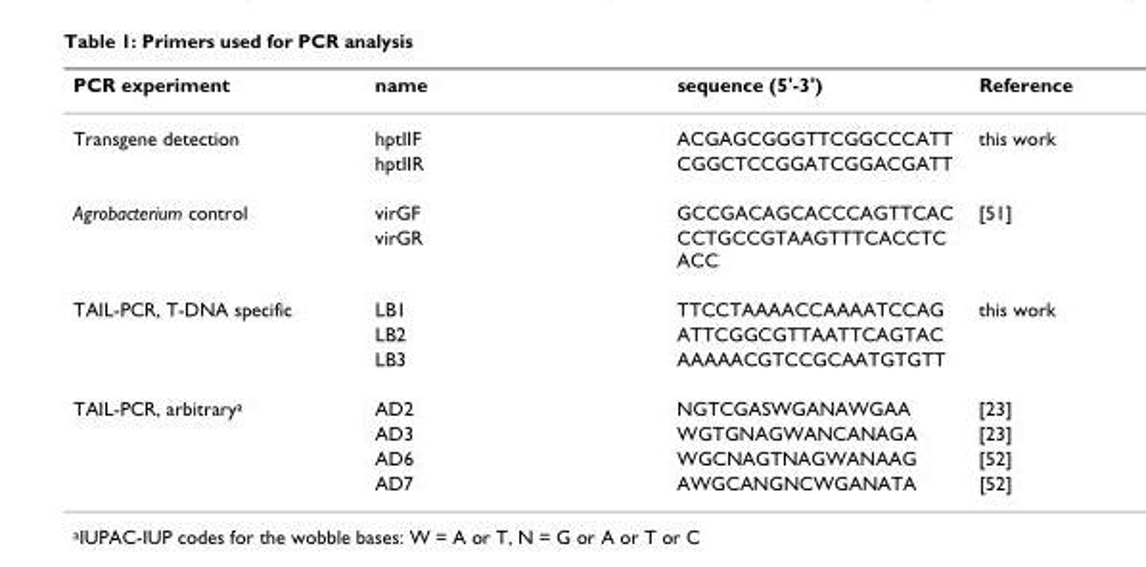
<table><thead><tr><td>PCR experiment</td><td>name</td><td>sequence (5&#x27;-3&#x27;)</td><td>Reference</td></tr></thead><tbody><tr><td rowspan="2">Transgene detection</td><td>hptIIF</td><td>ACGAGCGGGTTCGGCCCATT</td><td>this work</td></tr><tr><td>hptIIR</td><td>CGGCTCCGGATCGGACGATT</td><td></td></tr><tr><td rowspan="2">Agrobacterium control</td><td>virGF</td><td>GCCGACAGCACCCAGTTCAC</td><td>[51]</td></tr><tr><td>virGR</td><td>CCTGCCGTAAGTTTCACCTC ACC</td><td></td></tr><tr><td rowspan="3">TAIL-PCR, T-DNA specific</td><td>LB1</td><td>TTCCTAAAACCAAAATCCAG</td><td>this work</td></tr><tr><td>LB2</td><td>ATTCGGCGTTAATTCAGTAC</td><td></td></tr><tr><td>LB3</td><td>AAAAACGTCCGCAATGTGTT</td><td></td></tr><tr><td rowspan="4">TAIL-PCR, arbitrarya</td><td>AD2</td><td>NGTCGASWGANAWGAA</td><td>[23]</td></tr><tr><td>AD3</td><td>WGTGNAGWANCANAGA</td><td>[23]</td></tr><tr><td>AD6</td><td>WGCNAGTNAGWANAAG</td><td>[52]</td></tr><tr><td>AD7</td><td>AWGCANGNCWGANATA</td><td>[52]</td></tr></tbody></table>